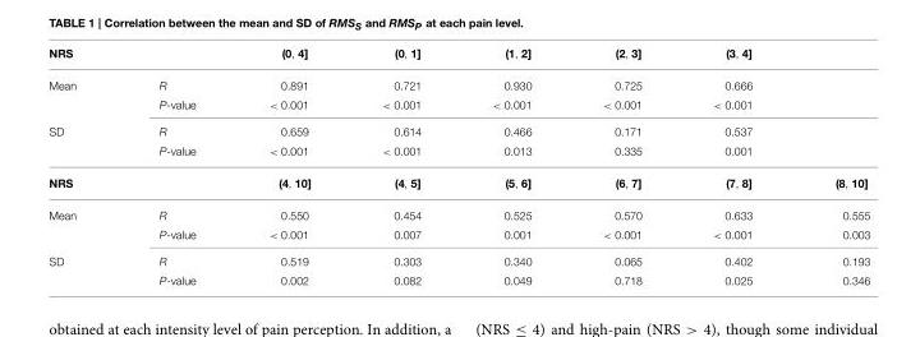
<table><thead><tr><td colspan="2">NRS</td><td rowspan="2">(0, 4] 0.891</td><td rowspan="2">(0, 1] 0.721</td><td rowspan="2">(1, 2] 0.930</td><td rowspan="2">(2, 3] 0.725</td><td rowspan="2">(3, 4] 0.666</td><td rowspan="2"></td></tr><tr><td>Mean</td><td>R</td></tr></thead><tbody><tr><td></td><td>P-value</td><td>&lt; 0.001</td><td>&lt; 0.001</td><td>&lt; 0.001</td><td>&lt; 0.001</td><td>&lt; 0.001</td><td></td></tr><tr><td rowspan="2">SD</td><td>R</td><td>0.659</td><td>0.614</td><td>0.466</td><td>0.171</td><td>0.537</td><td></td></tr><tr><td>P-value</td><td>&lt; 0.001</td><td>&lt; 0.001</td><td>0.013</td><td>0.335</td><td>0.001</td><td></td></tr><tr><td colspan="2">NRS</td><td>(4, 10]</td><td>(4, 5]</td><td>(5, 6]</td><td>(6, 7]</td><td>(7, 8]</td><td>(8, 10]</td></tr><tr><td rowspan="2">Mean</td><td>R</td><td>0.550</td><td>0.454</td><td>0.525</td><td>0.570</td><td>0.633</td><td>0.555</td></tr><tr><td>P-value</td><td>&lt; 0.001</td><td>0.007</td><td>0.001</td><td>&lt; 0.001</td><td>&lt; 0.001</td><td>0.003</td></tr><tr><td rowspan="2">SD</td><td>R</td><td>0.519</td><td>0.303</td><td>0.340</td><td>0.065</td><td>0.402</td><td>0.193</td></tr><tr><td>P-value</td><td>0.002</td><td>0.082</td><td>0.049</td><td>0.718</td><td>0.025</td><td>0.346</td></tr></tbody></table>